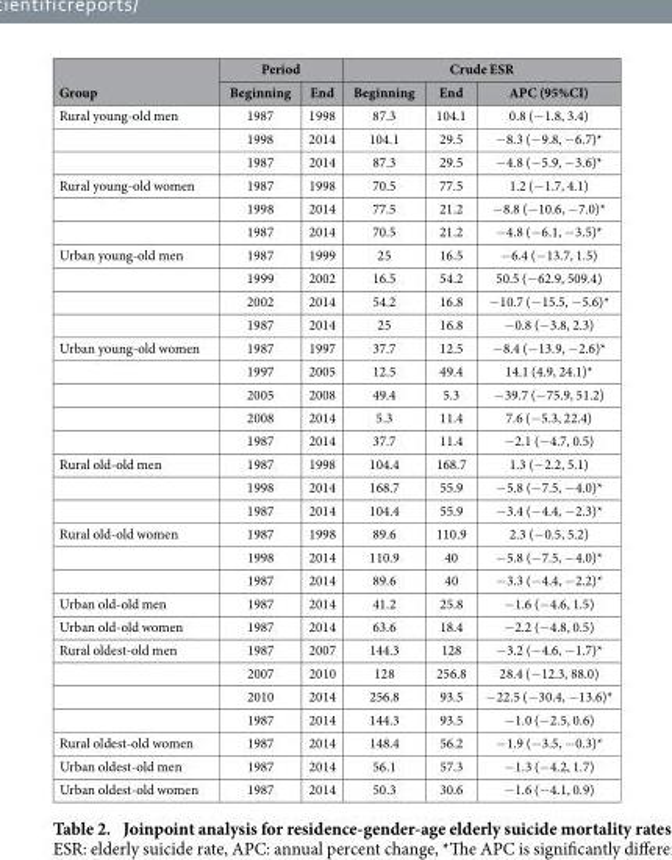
<table><thead><tr><td rowspan="2">Group</td><td colspan="2">Period</td><td colspan="3">Crude ESR</td></tr><tr><td>Beginning</td><td>End</td><td>Beginning</td><td>End</td><td>APC (95%CI)</td></tr></thead><tbody><tr><td rowspan="3">Rural young-old men</td><td>1987</td><td>1998</td><td>87.3</td><td>104.1</td><td>0.8 (− 1.8, 3.4)</td></tr><tr><td>1998</td><td>2014</td><td>104.1</td><td>29.5</td><td>− 8.3 (− 9.8, − 6.7)*</td></tr><tr><td>1987</td><td>2014</td><td>87.3</td><td>29.5</td><td>− 4.8 (− 5.9, − 3.6)*</td></tr><tr><td rowspan="3">Rural young-old women</td><td>1987</td><td>1998</td><td>70.5</td><td>77.5</td><td>1.2 (− 1.7, 4.1)</td></tr><tr><td>1998</td><td>2014</td><td>77.5</td><td>21.2</td><td>− 8.8 (− 10.6, − 7.0)*</td></tr><tr><td>1987</td><td>2014</td><td>70.5</td><td>21.2</td><td>− 4.8 (− 6.1, − 3.5)*</td></tr><tr><td rowspan="4">Urban young-old men</td><td>1987</td><td>1999</td><td>25</td><td>16.5</td><td>− 6.4 (− 13.7, 1.5)</td></tr><tr><td>1999</td><td>2002</td><td>16.5</td><td>54.2</td><td>50.5 (− 62.9, 509.4)</td></tr><tr><td>2002</td><td>2014</td><td>54.2</td><td>16.8</td><td>− 10.7 (− 15.5, − 5.6)*</td></tr><tr><td>1987</td><td>2014</td><td>25</td><td>16.8</td><td>− 0.8 (− 3.8, 2.3)</td></tr><tr><td rowspan="5">Urban young-old women</td><td>1987</td><td>1997</td><td>37.7</td><td>12.5</td><td>− 8.4 (− 13.9, − 2.6)*</td></tr><tr><td>1997</td><td>2005</td><td>12.5</td><td>49.4</td><td>14.1 (4.9, 24.1)*</td></tr><tr><td>2005</td><td>2008</td><td>49.4</td><td>5.3</td><td>− 39.7 (− 75.9, 51.2)</td></tr><tr><td>2008</td><td>2014</td><td>5.3</td><td>11.4</td><td>7.6 (− 5.3, 22.4)</td></tr><tr><td>1987</td><td>2014</td><td>37.7</td><td>11.4</td><td>− 2.1 (− 4.7, 0.5)</td></tr><tr><td rowspan="3">Rural old-old men</td><td>1987</td><td>1998</td><td>104.4</td><td>168.7</td><td>1.3 (− 2.2, 5.1)</td></tr><tr><td>1998</td><td>2014</td><td>168.7</td><td>55.9</td><td>− 5.8 (− 7.5, − 4.0)*</td></tr><tr><td>1987</td><td>2014</td><td>104.4</td><td>55.9</td><td>− 3.4 (− 4.4, − 2.3)*</td></tr><tr><td rowspan="3">Rural old-old women</td><td>1987</td><td>1998</td><td>89.6</td><td>110.9</td><td>2.3 (− 0.5, 5.2)</td></tr><tr><td>1998</td><td>2014</td><td>110.9</td><td>40</td><td>− 5.8 (− 7.5, − 4.0)*</td></tr><tr><td>1987</td><td>2014</td><td>89.6</td><td>40</td><td>− 3.3 (− 4.4, − 2.2)*</td></tr><tr><td>Urban old-old men</td><td>1987</td><td>2014</td><td>41.2</td><td>25.8</td><td>− 1.6 (− 4.6, 1.5)</td></tr><tr><td>Urban old-old women</td><td>1987</td><td>2014</td><td>63.6</td><td>18.4</td><td>− 2.2 (− 4.8, 0.5)</td></tr><tr><td rowspan="4">Rural oldest-old men</td><td>1987</td><td>2007</td><td>144.3</td><td>128</td><td>− 3.2 (− 4.6, − 1.7)*</td></tr><tr><td>2007</td><td>2010</td><td>128</td><td>256.8</td><td>28.4 (− 12.3, 88.0)</td></tr><tr><td>2010</td><td>2014</td><td>256.8</td><td>93.5</td><td>− 22.5 (− 30.4, − 13.6)*</td></tr><tr><td>1987</td><td>2014</td><td>144.3</td><td>93.5</td><td>− 1.0 (− 2.5, 0.6)</td></tr><tr><td>Rural oldest-old women</td><td>1987</td><td>2014</td><td>148.4</td><td>56.2</td><td>− 1.9 (− 3.5, − 0.3)*</td></tr><tr><td>Urban oldest-old men</td><td>1987</td><td>2014</td><td>56.1</td><td>57.3</td><td>− 1.3 (− 4.2, 1.7)</td></tr><tr><td>Urban oldest-old women</td><td>1987</td><td>2014</td><td>50.3</td><td>30.6</td><td>− 1.6 (− 4.1, 0.9)</td></tr></tbody></table>